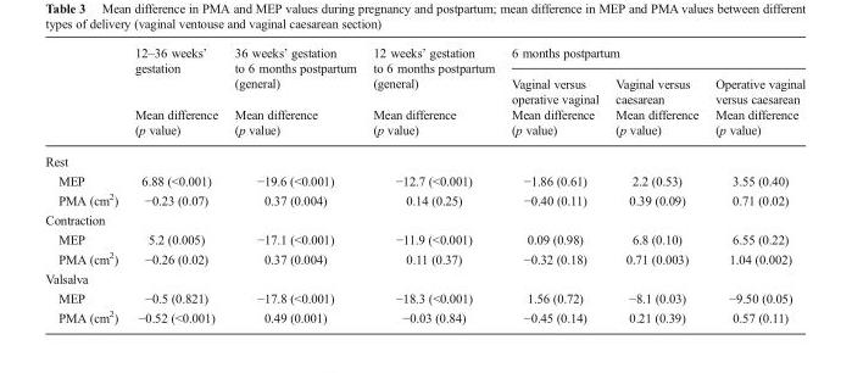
<table><thead><tr><td rowspan="3"></td><td rowspan="3">12–36 weeks’ gestation Mean difference (p value)</td><td rowspan="3">36 weeks’ gestation to 6 months postpartum (general) Mean difference (p value)</td><td rowspan="3">12 weeks’ gestation to 6 months postpartum (general) Mean difference (p value)</td><td colspan="3">6 months postpartum</td></tr><tr><td rowspan="2">Vaginal versus operative vaginal Mean difference (p value)</td><td rowspan="2">Vaginal versus caesarean Mean difference (p value)</td><td rowspan="2">Operative vaginal versus caesarean Mean difference (p value)</td></tr><tr></tr></thead><tbody><tr><td colspan="7">Rest</td></tr><tr><td>MEP</td><td>6.88 (&lt;0.001)</td><td>−19.6 (&lt;0.001)</td><td>−12.7 (&lt;0.001)</td><td>−1.86 (0.61)</td><td>2.2 (0.53)</td><td>3.55 (0.40)</td></tr><tr><td>PMA (cm<sup>2</sup>)</td><td>−0.23 (0.07)</td><td>0.37 (0.004)</td><td>0.14 (0.25)</td><td>−0.40 (0.11)</td><td>0.39 (0.09)</td><td>0.71 (0.02)</td></tr><tr><td colspan="7">Contraction</td></tr><tr><td>MEP</td><td>5.2 (0.005)</td><td>−17.1 (&lt;0.001)</td><td>−11.9 (&lt;0.001)</td><td>0.09 (0.98)</td><td>6.8 (0.10)</td><td>6.55 (0.22)</td></tr><tr><td>PMA (cm<sup>2</sup>)</td><td>−0.26 (0.02)</td><td>0.37 (0.004)</td><td>0.11 (0.37)</td><td>−0.32 (0.18)</td><td>0.71 (0.003)</td><td>1.04 (0.002)</td></tr><tr><td colspan="7">Valsalva</td></tr><tr><td>MEP</td><td>−0.5 (0.821)</td><td>−17.8 (&lt;0.001)</td><td>−18.3 (&lt;0.001)</td><td>1.56 (0.72)</td><td>−8.1 (0.03)</td><td>−9.50 (0.05)</td></tr><tr><td>PMA (cm<sup>2</sup>)</td><td>−0.52 (&lt;0.001)</td><td>0.49 (0.001)</td><td>−0.03 (0.84)</td><td>−0.45 (0.14)</td><td>0.21 (0.39)</td><td>0.57 (0.11)</td></tr></tbody></table>